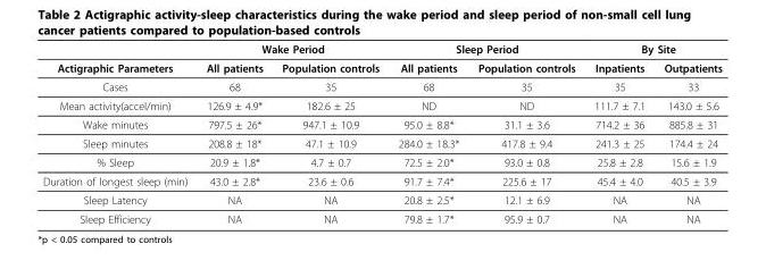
<table><thead><tr><td rowspan="2">Actigraphic Parameters</td><td colspan="2">Wake Period</td><td colspan="2">Sleep Period</td><td colspan="2">By Site</td></tr><tr><td>All patients</td><td>Population controls</td><td>All patients</td><td>Population controls</td><td>Inpatients</td><td>Outpatients</td></tr></thead><tbody><tr><td>Cases</td><td>68</td><td>35</td><td>68</td><td>35</td><td>35</td><td>33</td></tr><tr><td>Mean activity(accel/min)</td><td>126.9 ± 4.9*</td><td>182.6 ± 25</td><td>ND</td><td>ND</td><td>111.7 ± 7.1</td><td>143.0 ± 5.6</td></tr><tr><td>Wake minutes</td><td>797.5 ± 26*</td><td>947.1 ± 10.9</td><td>95.0 ± 8.8*</td><td>31.1 ± 3.6</td><td>714.2 ± 36</td><td>885.8 ± 31</td></tr><tr><td>Sleep minutes</td><td>208.8 ± 18*</td><td>47.1 ± 10.9</td><td>284.0 ± 18.3*</td><td>417.8 ± 9.4</td><td>241.3 ± 25</td><td>174.4 ± 24</td></tr><tr><td>% Sleep</td><td>20.9 ± 1.8*</td><td>4.7 ± 0.7</td><td>72.5 ± 2.0*</td><td>93.0 ± 0.8</td><td>25.8 ± 2.8</td><td>15.6 ± 1.9</td></tr><tr><td>Duration of longest sleep (min)</td><td>43.0 ± 2.8*</td><td>23.6 ± 0.6</td><td>91.7 ± 7.4*</td><td>225.6 ± 17</td><td>45.4 ± 4.0</td><td>40.5 ± 3.9</td></tr><tr><td>Sleep Latency</td><td>NA</td><td>NA</td><td>20.8 ± 2.5*</td><td>12.1 ± 6.9</td><td>NA</td><td>NA</td></tr><tr><td>Sleep Efficiency</td><td>NA</td><td>NA</td><td>79.8 ± 1.7*</td><td>95.9 ± 0.7</td><td>NA</td><td>NA</td></tr></tbody></table>